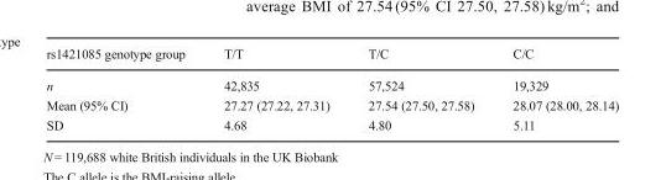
<table><thead><tr><td>rs1421085 genotype group</td><td>T/T</td><td>T/C</td><td>C/C</td></tr></thead><tbody><tr><td>n</td><td>42,835</td><td>57,524</td><td>19,329</td></tr><tr><td>Mean (95% CI)</td><td>27.27 (27.22, 27.31)</td><td>27.54 (27.50, 27.58)</td><td>28.07 (28.00, 28.14)</td></tr><tr><td>SD</td><td>4.68</td><td>4.80</td><td>5.11</td></tr></tbody></table>